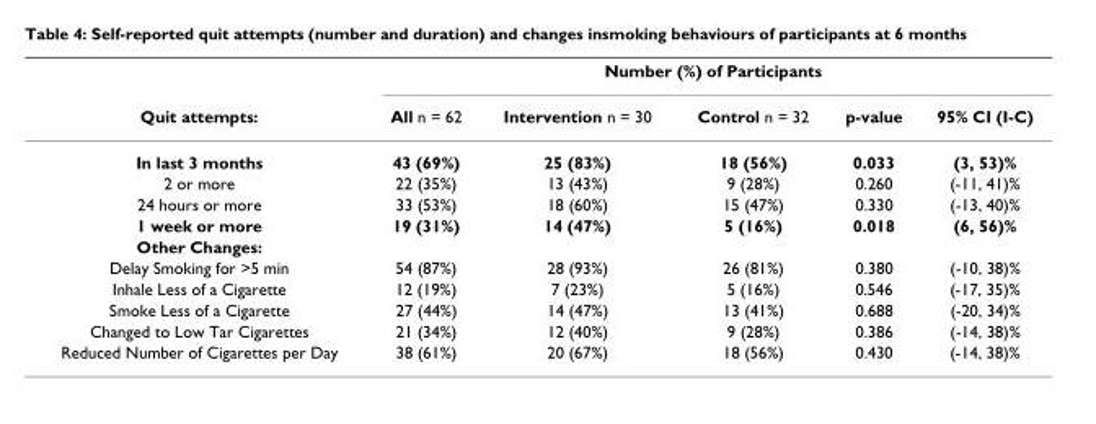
<table><thead><tr><td rowspan="2">Quit attempts:</td><td colspan="5">Number (%) of Participants</td></tr><tr><td>All n = 62</td><td>Intervention n = 30</td><td>Control n = 32</td><td>p-value</td><td>95% CI (I-C)</td></tr></thead><tbody><tr><td>In last 3 months</td><td>43 (69%)</td><td>25 (83%)</td><td>18 (56%)</td><td>0.033</td><td>(3, 53)%</td></tr><tr><td>2 or more</td><td>22 (35%)</td><td>13 (43%)</td><td>9 (28%)</td><td>0.260</td><td>(-11, 41)%</td></tr><tr><td>24 hours or more</td><td>33 (53%)</td><td>18 (60%)</td><td>15 (47%)</td><td>0.330</td><td>(-13, 40)%</td></tr><tr><td>1 week or more</td><td>19 (31%)</td><td>14 (47%)</td><td>5 (16%)</td><td>0.018</td><td>(6, 56)%</td></tr><tr><td colspan="6">Other Changes:</td></tr><tr><td>Delay Smoking for &gt;5 min</td><td>54 (87%)</td><td>28 (93%)</td><td>26 (81%)</td><td>0.380</td><td>(-10, 38)%</td></tr><tr><td>Inhale Less of a Cigarette</td><td>12 (19%)</td><td>7 (23%)</td><td>5 (16%)</td><td>0.546</td><td>(-17, 35)%</td></tr><tr><td>Smoke Less of a Cigarette</td><td>27 (44%)</td><td>14 (47%)</td><td>13 (41%)</td><td>0.688</td><td>(-20, 34)%</td></tr><tr><td>Changed to Low Tar Cigarettes</td><td>21 (34%)</td><td>12 (40%)</td><td>9 (28%)</td><td>0.386</td><td>(-14, 38)%</td></tr><tr><td>Reduced Number of Cigarettes per Day</td><td>38 (61%)</td><td>20 (67%)</td><td>18 (56%)</td><td>0.430</td><td>(-14, 38)%</td></tr></tbody></table>